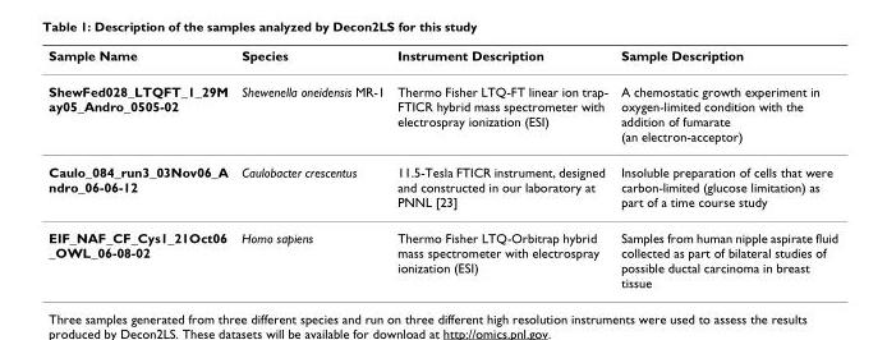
<table><thead><tr><td>Sample Name</td><td>Species</td><td>Instrument Description</td><td>Sample Description</td></tr></thead><tbody><tr><td>ShewFed028_LTQFT_1_29M ay05_Andro_0505-02</td><td>Shewenella oneidensis MR-1</td><td>Thermo Fisher LTQ-FT linear ion trap- FTICR hybrid mass spectrometer with electrospray ionization (ESI)</td><td>A chemostatic growth experiment in oxygen-limited condition with the addition of fumarate (an electron-acceptor)</td></tr><tr><td>Caulo_084_run3_03Nov06_A ndro_06-06-12</td><td>Caulobacter crescentus</td><td>11.5-Tesla FTICR instrument, designed and constructed in our laboratory at PNNL [23]</td><td>Insoluble preparation of cells that were carbon-limited (glucose limitation) as part of a time course study</td></tr><tr><td>EIF_NAF_CF_Cys1_21Oct06 _OWL_06-08-02</td><td>Homo sapiens</td><td>Thermo Fisher LTQ-Orbitrap hybrid mass spectrometer with electrospray ionization (ESI)</td><td>Samples from human nipple aspirate fluid collected as part of bilateral studies of possible ductal carcinoma in breast tissue</td></tr></tbody></table>